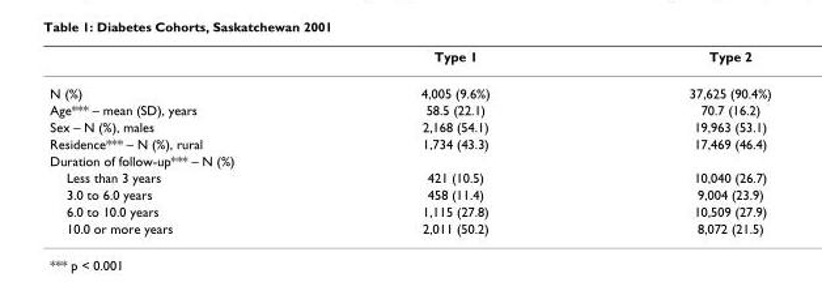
<table><thead><tr><td></td><td>Type 1</td><td>Type 2</td></tr></thead><tbody><tr><td>N (%)</td><td>4,005 (9.6%)</td><td>37,625 (90.4%)</td></tr><tr><td>Age*** – mean (SD), years</td><td>58.5 (22.1)</td><td>70.7 (16.2)</td></tr><tr><td>Sex – N (%), males</td><td>2,168 (54.1)</td><td>19,963 (53.1)</td></tr><tr><td>Residence*** – N (%), rural</td><td>1,734 (43.3)</td><td>17,469 (46.4)</td></tr><tr><td colspan="3">Duration of follow-up*** – N (%)</td></tr><tr><td>Less than 3 years</td><td>421 (10.5)</td><td>10,040 (26.7)</td></tr><tr><td>3.0 to 6.0 years</td><td>458 (11.4)</td><td>9,004 (23.9)</td></tr><tr><td>6.0 to 10.0 years</td><td>1,115 (27.8)</td><td>10,509 (27.9)</td></tr><tr><td>10.0 or more years</td><td>2,011 (50.2)</td><td>8,072 (21.5)</td></tr></tbody></table>